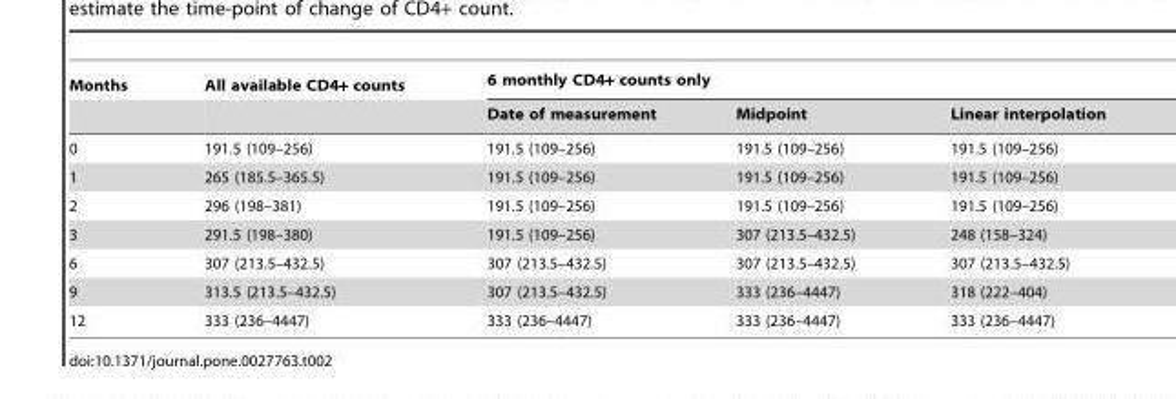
<table><thead><tr><td rowspan="2">Months</td><td rowspan="2">All available CD4+ counts</td><td colspan="3">6 monthly CD4+ counts only</td></tr><tr><td>Date of measurement</td><td>Midpoint</td><td>Linear interpolation</td></tr></thead><tbody><tr><td>0</td><td>191.5 (109–256)</td><td>191.5 (109–256)</td><td>191.5 (109–256)</td><td>191.5 (109–256)</td></tr><tr><td>1</td><td>265 (185.5–365.5)</td><td>191.5 (109–256)</td><td>191.5 (109–256)</td><td>191.5 (109–256)</td></tr><tr><td>2</td><td>296 (198–381)</td><td>191.5 (109–256)</td><td>191.5 (109–256)</td><td>191.5 (109–256)</td></tr><tr><td>3</td><td>291.5 (198–380)</td><td>191.5 (109–256)</td><td>307 (213.5–432.5)</td><td>248 (158–324)</td></tr><tr><td>6</td><td>307 (213.5–432.5)</td><td>307 (213.5–432.5)</td><td>307 (213.5–432.5)</td><td>307 (213.5–432.5)</td></tr><tr><td>9</td><td>313.5 (213.5–432.5)</td><td>307 (213.5–432.5)</td><td>333 (236–4447)</td><td>318 (222–404)</td></tr><tr><td>12</td><td>333 (236–4447)</td><td>333 (236–4447)</td><td>333 (236–4447)</td><td>333 (236–4447)</td></tr></tbody></table>